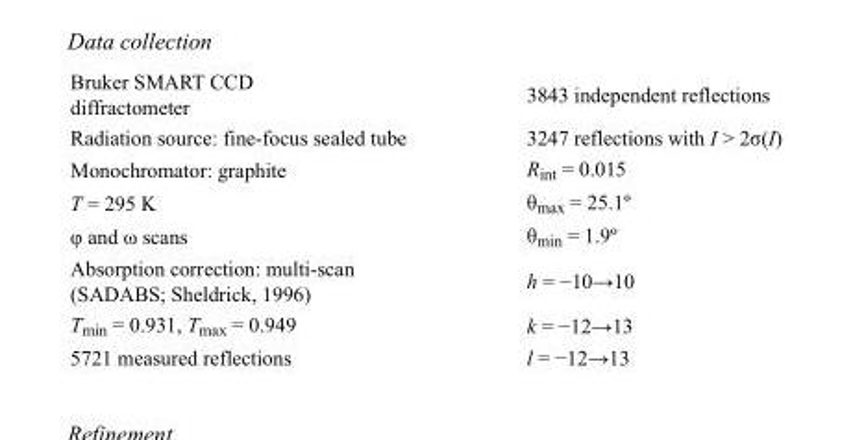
<table><tbody><tr><td>Bruker SMART CCD diffractometer</td><td>3843 independent reflections</td></tr><tr><td>Radiation source: fine-focus sealed tube</td><td>3247 reflections with I &gt; 2σ(I)</td></tr><tr><td>Monochromator: graphite</td><td>R<sub>int</sub> = 0.015</td></tr><tr><td>T = 295 K</td><td>θ<sub>max</sub> = 25.1º</td></tr><tr><td>φ and ω scans</td><td>θ<sub>min</sub> = 1.9º</td></tr><tr><td>Absorption correction: multi-scan (SADABS; Sheldrick, 1996)</td><td>h = −10→10</td></tr><tr><td>T<sub>min</sub> = 0.931, T<sub>max</sub> = 0.949</td><td>k = −12→13</td></tr><tr><td>5721 measured reflections</td><td>l = −12→13</td></tr></tbody></table>